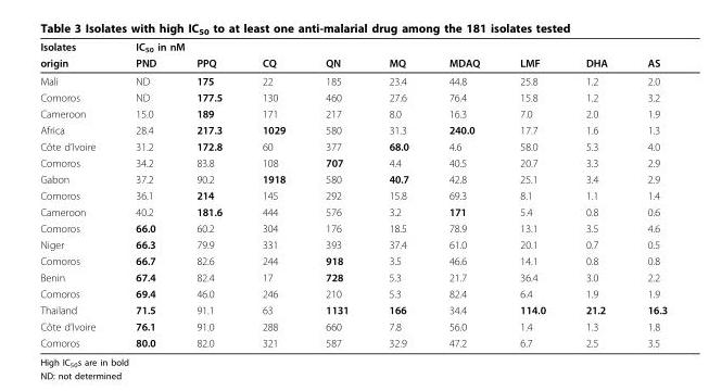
<table><thead><tr><td rowspan="2">Isolates origin</td><td colspan="2">IC<sub>50</sub> in nM</td><td rowspan="2">CQ</td><td rowspan="2">QN</td><td rowspan="2">MQ</td><td rowspan="2">MDAQ</td><td rowspan="2">LMF</td><td rowspan="2">DHA</td><td rowspan="2">AS</td></tr><tr><td>PND</td><td>PPQ</td></tr></thead><tbody><tr><td>Mali</td><td>ND</td><td>175</td><td>22</td><td>185</td><td>23.4</td><td>44.8</td><td>25.8</td><td>1.2</td><td>2.0</td></tr><tr><td>Comoros</td><td>ND</td><td>177.5</td><td>130</td><td>460</td><td>27.6</td><td>76.4</td><td>15.8</td><td>1.2</td><td>3.2</td></tr><tr><td>Cameroon</td><td>15.0</td><td>189</td><td>171</td><td>217</td><td>8.0</td><td>16.3</td><td>7.0</td><td>2.0</td><td>1.9</td></tr><tr><td>Africa</td><td>28.4</td><td>217.3</td><td>1029</td><td>580</td><td>31.3</td><td>240.0</td><td>17.7</td><td>1.6</td><td>1.3</td></tr><tr><td>Côte d’Ivoire</td><td>31.2</td><td>172.8</td><td>60</td><td>377</td><td>68.0</td><td>4.6</td><td>58.0</td><td>5.3</td><td>4.0</td></tr><tr><td>Comoros</td><td>34.2</td><td>83.8</td><td>108</td><td>707</td><td>4.4</td><td>40.5</td><td>20.7</td><td>3.3</td><td>2.9</td></tr><tr><td>Gabon</td><td>37.2</td><td>90.2</td><td>1918</td><td>580</td><td>40.7</td><td>42.8</td><td>25.1</td><td>3.4</td><td>2.9</td></tr><tr><td>Comoros</td><td>36.1</td><td>214</td><td>145</td><td>292</td><td>15.8</td><td>69.3</td><td>8.1</td><td>1.1</td><td>1.4</td></tr><tr><td>Cameroon</td><td>40.2</td><td>181.6</td><td>444</td><td>576</td><td>3.2</td><td>171</td><td>5.4</td><td>0.8</td><td>0.6</td></tr><tr><td>Comoros</td><td>66.0</td><td>60.2</td><td>304</td><td>176</td><td>18.5</td><td>78.9</td><td>13.1</td><td>3.5</td><td>4.6</td></tr><tr><td>Niger</td><td>66.3</td><td>79.9</td><td>331</td><td>393</td><td>37.4</td><td>61.0</td><td>20.1</td><td>0.7</td><td>0.5</td></tr><tr><td>Comoros</td><td>66.7</td><td>82.6</td><td>244</td><td>918</td><td>3.5</td><td>46.6</td><td>14.1</td><td>0.8</td><td>0.8</td></tr><tr><td>Benin</td><td>67.4</td><td>82.4</td><td>17</td><td>728</td><td>5.3</td><td>21.7</td><td>36.4</td><td>3.0</td><td>2.2</td></tr><tr><td>Comoros</td><td>69.4</td><td>46.0</td><td>246</td><td>210</td><td>5.3</td><td>82.4</td><td>6.4</td><td>1.9</td><td>1.9</td></tr><tr><td>Thailand</td><td>71.5</td><td>91.1</td><td>63</td><td>1131</td><td>166</td><td>34.4</td><td>114.0</td><td>21.2</td><td>16.3</td></tr><tr><td>Côte d’Ivoire</td><td>76.1</td><td>91.0</td><td>288</td><td>660</td><td>7.8</td><td>56.0</td><td>1.4</td><td>1.3</td><td>1.8</td></tr><tr><td>Comoros</td><td>80.0</td><td>82.0</td><td>321</td><td>587</td><td>32.9</td><td>47.2</td><td>6.7</td><td>2.5</td><td>3.5</td></tr></tbody></table>